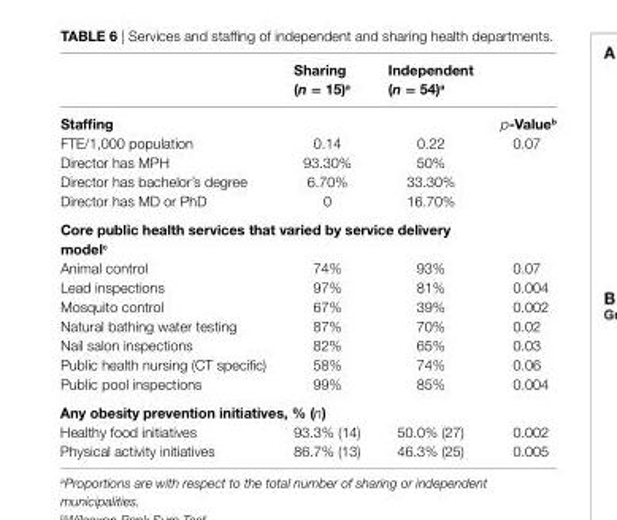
<table><thead><tr><td></td><td>sharing (n = 15)<sup>a</sup></td><td>independent (n = 54)<sup>a</sup></td><td></td></tr></thead><tbody><tr><td>staffing</td><td></td><td></td><td>p-Valueb</td></tr><tr><td>FTE/1,000 population</td><td>0.14</td><td>0.22</td><td>0.07</td></tr><tr><td>Director has MPH</td><td>93.30%</td><td>50%</td><td></td></tr><tr><td>Director has bachelor’s degree</td><td>6.70%</td><td>33.30%</td><td></td></tr><tr><td>Director has MD or PhD</td><td>0</td><td>16.70%</td><td></td></tr><tr><td colspan="4">core public health services that varied by service delivery model<sup>c</sup></td></tr><tr><td>Animal control</td><td>74%</td><td>93%</td><td>0.07</td></tr><tr><td>Lead inspections</td><td>97%</td><td>81%</td><td>0.004</td></tr><tr><td>Mosquito control</td><td>67%</td><td>39%</td><td>0.002</td></tr><tr><td>Natural bathing water testing</td><td>87%</td><td>70%</td><td>0.02</td></tr><tr><td>Nail salon inspections</td><td>82%</td><td>65%</td><td>0.03</td></tr><tr><td>Public health nursing (CT specific)</td><td>58%</td><td>74%</td><td>0.06</td></tr><tr><td>Public pool inspections</td><td>99%</td><td>85%</td><td>0.004</td></tr><tr><td colspan="4">any obesity prevention initiatives, % (n)</td></tr><tr><td>Healthy food initiatives</td><td>93.3% (14)</td><td>50.0% (27)</td><td>0.002</td></tr><tr><td>Physical activity initiatives</td><td>86.7% (13)</td><td>46.3% (25)</td><td>0.005</td></tr></tbody></table>